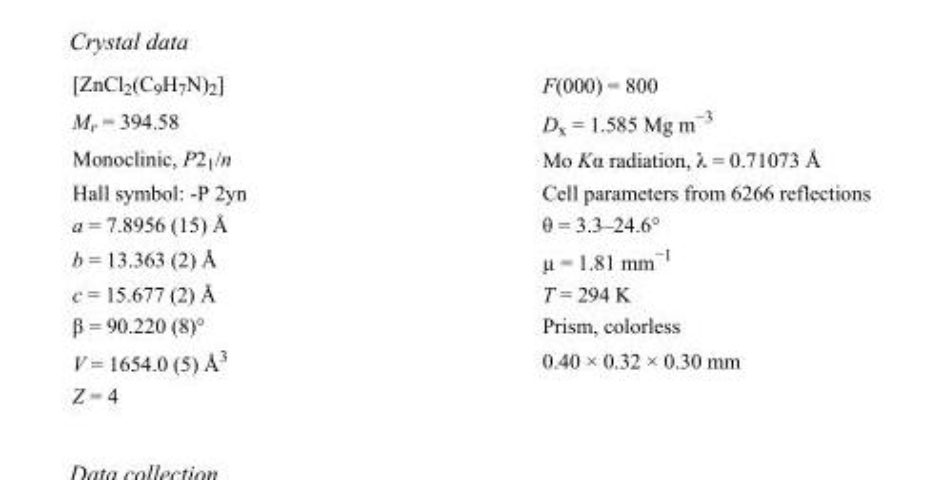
<table><tbody><tr><td>[ZnCl<sub>2</sub>(C<sub>9</sub>H<sub>7</sub>N)<sub>2</sub>]</td><td>F(000) = 800</td></tr><tr><td>M<sub>r</sub> = 394.58</td><td>D<sub>x</sub> = 1.585 Mg m<sup>−3</sup></td></tr><tr><td>Monoclinic, P2<sub>1</sub>/n</td><td>Mo Kα radiation, λ = 0.71073 Å</td></tr><tr><td>Hall symbol: -P 2yn</td><td>Cell parameters from 6266 reflections</td></tr><tr><td>a = 7.8956 (15) Å</td><td>θ = 3.3–24.6°</td></tr><tr><td>b = 13.363 (2) Å</td><td>µ = 1.81 mm<sup>−1</sup></td></tr><tr><td>c = 15.677 (2) Å</td><td>T = 294 K</td></tr><tr><td>β = 90.220 (8)°</td><td>Prism, colorless</td></tr><tr><td>V = 1654.0 (5) Å<sup>3</sup></td><td>0.40 × 0.32 × 0.30 mm</td></tr><tr><td>Z = 4</td><td></td></tr></tbody></table>